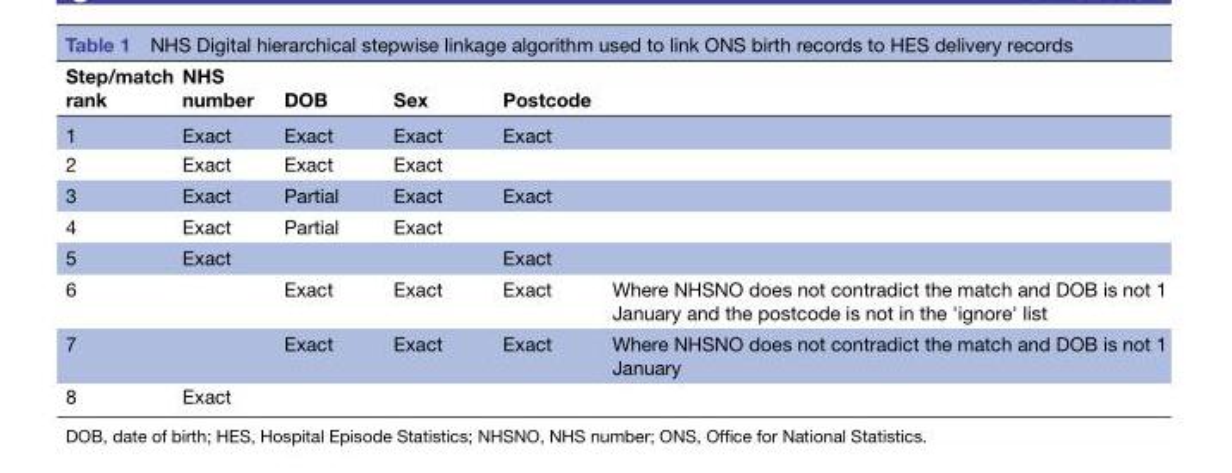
<table><thead><tr><td>Step/match rank</td><td>NHS number</td><td>DOB</td><td>Sex</td><td>Postcode</td><td></td></tr></thead><tbody><tr><td>1</td><td>Exact</td><td>Exact</td><td>Exact</td><td>Exact</td><td></td></tr><tr><td>2</td><td>Exact</td><td>Exact</td><td>Exact</td><td></td><td></td></tr><tr><td>3</td><td>Exact</td><td>Partial</td><td>Exact</td><td>Exact</td><td></td></tr><tr><td>4</td><td>Exact</td><td>Partial</td><td>Exact</td><td></td><td></td></tr><tr><td>5</td><td>Exact</td><td></td><td></td><td>Exact</td><td></td></tr><tr><td>6</td><td></td><td>Exact</td><td>Exact</td><td>Exact</td><td>Where NHSNO does not contradict the match and DOB is not 1 January and the postcode is not in the &#x27;ignore&#x27; list</td></tr><tr><td>7</td><td></td><td>Exact</td><td>Exact</td><td>Exact</td><td>Where NHSNO does not contradict the match and DOB is not 1 January</td></tr><tr><td>8</td><td>Exact</td><td></td><td></td><td></td><td></td></tr></tbody></table>